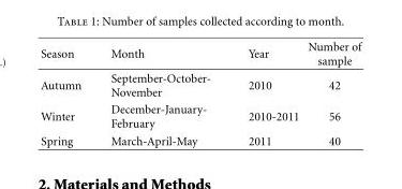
<table><thead><tr><td>Season</td><td>Month</td><td>Year</td><td>Number of sample</td></tr></thead><tbody><tr><td>Autumn</td><td>September-October- November</td><td>2010</td><td>42</td></tr><tr><td>Winter</td><td>December-January- February</td><td>2010-2011</td><td>56</td></tr><tr><td>Spring</td><td>March-April-May</td><td>2011</td><td>40</td></tr></tbody></table>